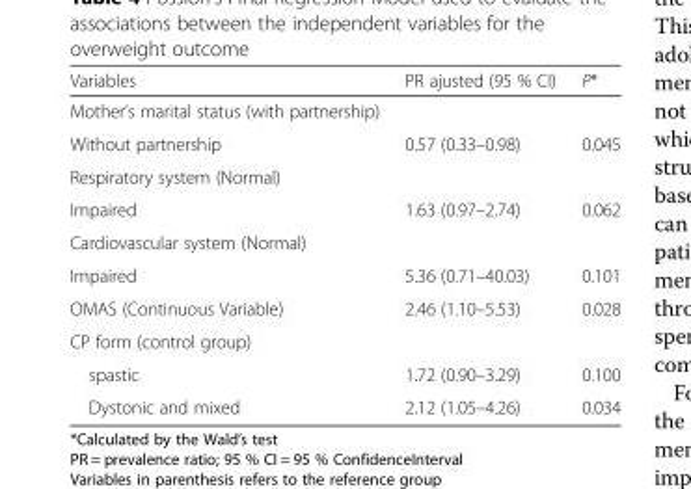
<table><thead><tr><td>Variables</td><td>PR ajusted (95 % CI)</td><td>P*</td></tr></thead><tbody><tr><td colspan="3">Mother’s marital status (with partnership)</td></tr><tr><td>Without partnership</td><td>0.57 (0.33–0.98)</td><td>0.045</td></tr><tr><td colspan="3">Respiratory system (Normal)</td></tr><tr><td>Impaired</td><td>1.63 (0.97–2.74)</td><td>0.062</td></tr><tr><td colspan="3">Cardiovascular system (Normal)</td></tr><tr><td>Impaired</td><td>5.36 (0.71–40.03)</td><td>0.101</td></tr><tr><td>OMAS (Continuous Variable)</td><td>2.46 (1.10–5.53)</td><td>0.028</td></tr><tr><td colspan="3">CP form (control group)</td></tr><tr><td>spastic</td><td>1.72 (0.90–3.29)</td><td>0.100</td></tr><tr><td>Dystonic and mixed</td><td>2.12 (1.05–4.26)</td><td>0.034</td></tr></tbody></table>